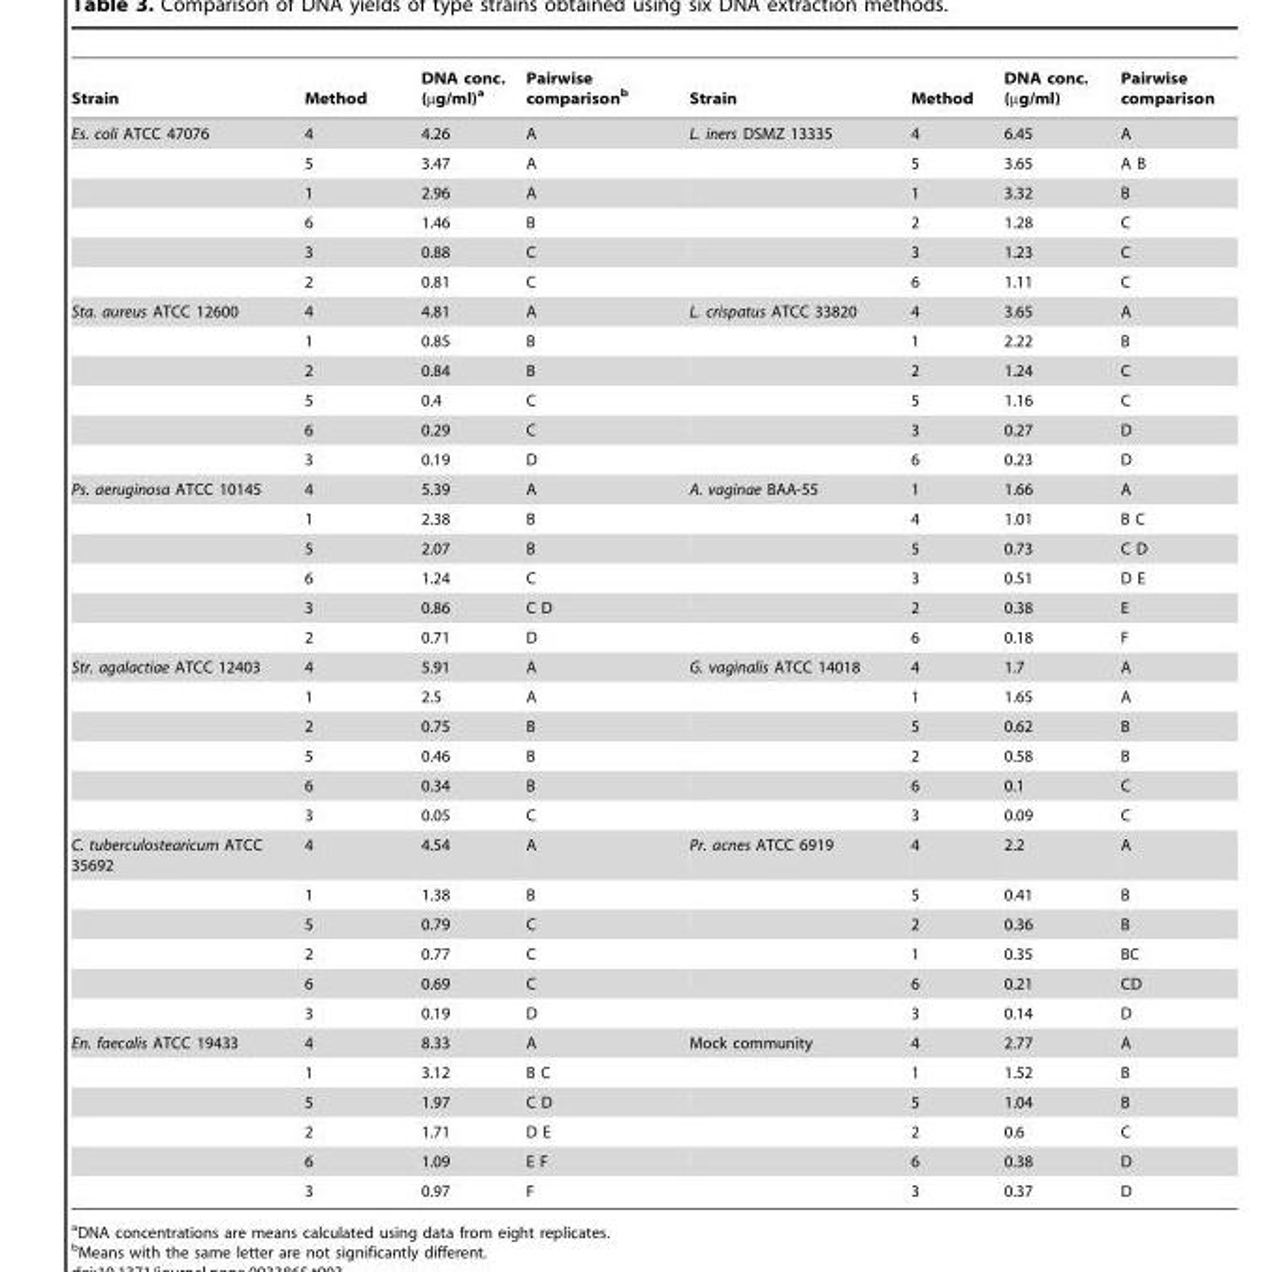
<table><thead><tr><td>Strain</td><td>Method</td><td>DNA conc. (µg/ml)<sup>a</sup></td><td>Pairwise comparison<sup>b</sup></td><td>Strain</td><td>Method</td><td>DNA conc. (µg/ml)</td><td>Pairwise comparison</td></tr></thead><tbody><tr><td rowspan="6">Es. coli ATCC 47076</td><td>4</td><td>4.26</td><td>A</td><td>L. iners DSMZ 13335</td><td>4</td><td>6.45</td><td>A</td></tr><tr><td>5</td><td>3.47</td><td>A</td><td></td><td>5</td><td>3.65</td><td>A B</td></tr><tr><td>1</td><td>2.96</td><td>A</td><td></td><td>1</td><td>3.32</td><td>B</td></tr><tr><td>6</td><td>1.46</td><td>B</td><td></td><td>2</td><td>1.28</td><td>C</td></tr><tr><td>3</td><td>0.88</td><td>C</td><td></td><td>3</td><td>1.23</td><td>C</td></tr><tr><td>2</td><td>0.81</td><td>C</td><td></td><td>6</td><td>1.11</td><td>C</td></tr><tr><td rowspan="6">Sta. aureus ATCC 12600</td><td>4</td><td>4.81</td><td>A</td><td>L. crispatus ATCC 33820</td><td>4</td><td>3.65</td><td>A</td></tr><tr><td>1</td><td>0.85</td><td>B</td><td></td><td>1</td><td>2.22</td><td>B</td></tr><tr><td>2</td><td>0.84</td><td>B</td><td></td><td>2</td><td>1.24</td><td>C</td></tr><tr><td>5</td><td>0.4</td><td>C</td><td></td><td>5</td><td>1.16</td><td>C</td></tr><tr><td>6</td><td>0.29</td><td>C</td><td></td><td>3</td><td>0.27</td><td>D</td></tr><tr><td>3</td><td>0.19</td><td>D</td><td></td><td>6</td><td>0.23</td><td>D</td></tr><tr><td rowspan="6">Ps. aeruginosa ATCC 10145</td><td>4</td><td>5.39</td><td>A</td><td>A. vaginae BAA-55</td><td>1</td><td>1.66</td><td>A</td></tr><tr><td>1</td><td>2.38</td><td>B</td><td></td><td>4</td><td>1.01</td><td>B C</td></tr><tr><td>5</td><td>2.07</td><td>B</td><td></td><td>5</td><td>0.73</td><td>C D</td></tr><tr><td>6</td><td>1.24</td><td>C</td><td></td><td>3</td><td>0.51</td><td>D E</td></tr><tr><td>3</td><td>0.86</td><td>C D</td><td></td><td>2</td><td>0.38</td><td>E</td></tr><tr><td>2</td><td>0.71</td><td>D</td><td></td><td>6</td><td>0.18</td><td>F</td></tr><tr><td rowspan="6">Str. agalactiae ATCC 12403</td><td>4</td><td>5.91</td><td>A</td><td>G. vaginalis ATCC 14018</td><td>4</td><td>1.7</td><td>A</td></tr><tr><td>1</td><td>2.5</td><td>A</td><td></td><td>1</td><td>1.65</td><td>A</td></tr><tr><td>2</td><td>0.75</td><td>B</td><td></td><td>5</td><td>0.62</td><td>B</td></tr><tr><td>5</td><td>0.46</td><td>B</td><td></td><td>2</td><td>0.58</td><td>B</td></tr><tr><td>6</td><td>0.34</td><td>B</td><td></td><td>6</td><td>0.1</td><td>C</td></tr><tr><td>3</td><td>0.05</td><td>C</td><td></td><td>3</td><td>0.09</td><td>C</td></tr><tr><td rowspan="6">C. tuberculostearicum ATCC 35692</td><td>4</td><td>4.54</td><td>A</td><td>Pr. acnes ATCC 6919</td><td>4</td><td>2.2</td><td>A</td></tr><tr><td>1</td><td>1.38</td><td>B</td><td></td><td>5</td><td>0.41</td><td>B</td></tr><tr><td>5</td><td>0.79</td><td>C</td><td></td><td>2</td><td>0.36</td><td>B</td></tr><tr><td>2</td><td>0.77</td><td>C</td><td></td><td>1</td><td>0.35</td><td>BC</td></tr><tr><td>6</td><td>0.69</td><td>C</td><td></td><td>6</td><td>0.21</td><td>CD</td></tr><tr><td>3</td><td>0.19</td><td>D</td><td></td><td>3</td><td>0.14</td><td>D</td></tr><tr><td rowspan="6">En. faecalis ATCC 19433</td><td>4</td><td>8.33</td><td>A</td><td>Mock community</td><td>4</td><td>2.77</td><td>A</td></tr><tr><td>1</td><td>3.12</td><td>B C</td><td></td><td>1</td><td>1.52</td><td>B</td></tr><tr><td>5</td><td>1.97</td><td>C D</td><td></td><td>5</td><td>1.04</td><td>B</td></tr><tr><td>2</td><td>1.71</td><td>D E</td><td></td><td>2</td><td>0.6</td><td>C</td></tr><tr><td>6</td><td>1.09</td><td>E F</td><td></td><td>6</td><td>0.38</td><td>D</td></tr><tr><td>3</td><td>0.97</td><td>F</td><td></td><td>3</td><td>0.37</td><td>D</td></tr></tbody></table>